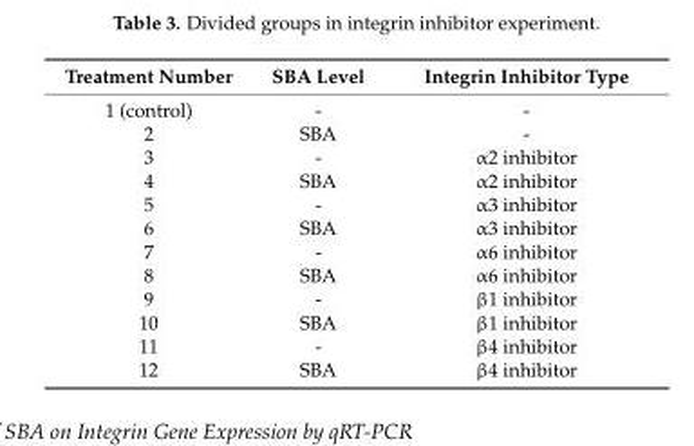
<table><thead><tr><td>Treatment Number</td><td>SBA Level</td><td>Integrin Inhibitor Type</td></tr></thead><tbody><tr><td>1 (control)</td><td>-</td><td>-</td></tr><tr><td>2</td><td>SBA</td><td>-</td></tr><tr><td>3</td><td>-</td><td>α2 inhibitor</td></tr><tr><td>4</td><td>SBA</td><td>α2 inhibitor</td></tr><tr><td>5</td><td>-</td><td>α3 inhibitor</td></tr><tr><td>6</td><td>SBA</td><td>α3 inhibitor</td></tr><tr><td>7</td><td>-</td><td>α6 inhibitor</td></tr><tr><td>8</td><td>SBA</td><td>α6 inhibitor</td></tr><tr><td>9</td><td>-</td><td>β1 inhibitor</td></tr><tr><td>10</td><td>SBA</td><td>β1 inhibitor</td></tr><tr><td>11</td><td>-</td><td>β4 inhibitor</td></tr><tr><td>12</td><td>SBA</td><td>β4 inhibitor</td></tr></tbody></table>